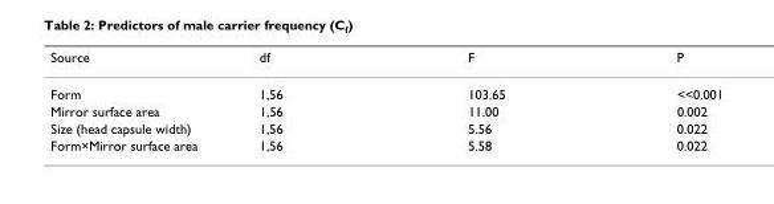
<table><thead><tr><td>Source</td><td>df</td><td>F</td><td>P</td></tr></thead><tbody><tr><td>Form</td><td>1,56</td><td>103.65</td><td>&lt;&lt;0.001</td></tr><tr><td>Mirror surface area</td><td>1,56</td><td>11.00</td><td>0.002</td></tr><tr><td>Size (head capsule width)</td><td>1,56</td><td>5.56</td><td>0.022</td></tr><tr><td>Form×Mirror surface area</td><td>1,56</td><td>5.58</td><td>0.022</td></tr></tbody></table>